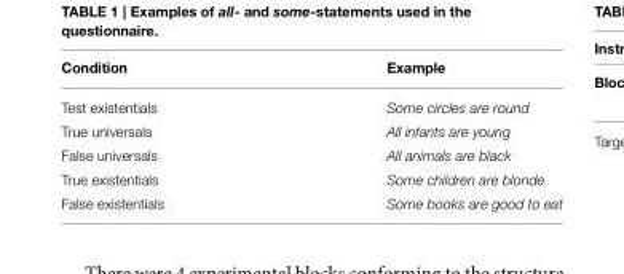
<table><thead><tr><td>Condition</td><td>Example</td></tr></thead><tbody><tr><td>Test existentials</td><td>Some circles are round</td></tr><tr><td>True universals</td><td>All infants are young</td></tr><tr><td>False universals</td><td>All animals are black</td></tr><tr><td>True existentials</td><td>Some children are blonde</td></tr><tr><td>False existentials</td><td>Some books are good to eat</td></tr></tbody></table>